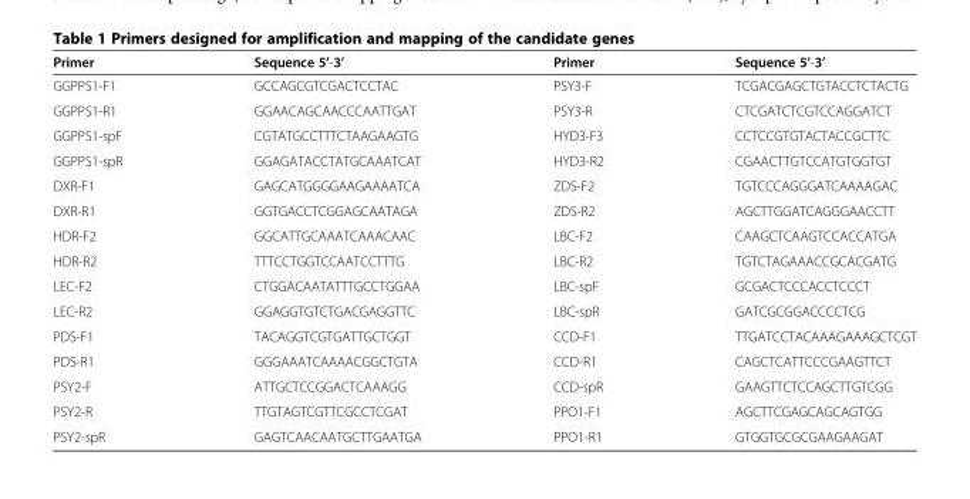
<table><thead><tr><td>Primer</td><td>Sequence 5’-3’</td><td>Primer</td><td>Sequence 5’-3’</td></tr></thead><tbody><tr><td>GGPPS1-F1</td><td>GCCAGCGTCGACTCCTAC</td><td>PSY3-F</td><td>TCGACGAGCTGTACCTCTACTG</td></tr><tr><td>GGPPS1-R1</td><td>GGAACAGCAACCCAATTGAT</td><td>PSY3-R</td><td>CTCGATCTCGTCCAGGATCT</td></tr><tr><td>GGPPS1-spF</td><td>CGTATGCCTTTCTAAGAAGTG</td><td>HYD3-F3</td><td>CCTCCGTGTACTACCGCTTC</td></tr><tr><td>GGPPS1-spR</td><td>GGAGATACCTATGCAAATCAT</td><td>HYD3-R2</td><td>CGAACTTGTCCATGTGGTGT</td></tr><tr><td>DXR-F1</td><td>GAGCATGGGGAAGAAAATCA</td><td>ZDS-F2</td><td>TGTCCCAGGGATCAAAAGAC</td></tr><tr><td>DXR-R1</td><td>GGTGACCTCGGAGCAATAGA</td><td>ZDS-R2</td><td>AGCTTGGATCAGGGAACCTT</td></tr><tr><td>HDR-F2</td><td>GGCATTGCAAATCAAACAAC</td><td>LBC-F2</td><td>CAAGCTCAAGTCCACCATGA</td></tr><tr><td>HDR-R2</td><td>TTTCCTGGTCCAATCCTTTG</td><td>LBC-R2</td><td>TGTCTAGAAACCGCACGATG</td></tr><tr><td>LEC-F2</td><td>CTGGACAATATTTGCCTGGAA</td><td>LBC-spF</td><td>GCGACTCCCACCTCCCT</td></tr><tr><td>LEC-R2</td><td>GGAGGTGTCTGACGAGGTTC</td><td>LBC-spR</td><td>GATCGCGGACCCCTCG</td></tr><tr><td>PDS-F1</td><td>TACAGGTCGTGATTGCTGGT</td><td>CCD-F1</td><td>TTGATCCTACAAAGAAAGCTCGT</td></tr><tr><td>PDS-R1</td><td>GGGAAATCAAAACGGCTGTA</td><td>CCD-R1</td><td>CAGCTCATTCCCGAAGTTCT</td></tr><tr><td>PSY2-F</td><td>ATTGCTCCGGACTCAAAGG</td><td>CCD-spR</td><td>GAAGTTCTCCAGCTTGTCGG</td></tr><tr><td>PSY2-R</td><td>TTGTAGTCGTTCGCCTCGAT</td><td>PPO1-F1</td><td>AGCTTCGAGCAGCAGTGG</td></tr><tr><td>PSY2-spR</td><td>GAGTCAACAATGCTTGAATGA</td><td>PPO1-R1</td><td>GTGGTGCGCGAAGAAGAT</td></tr></tbody></table>